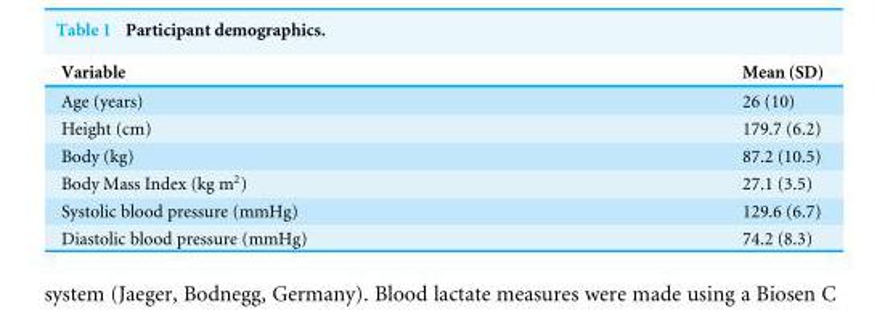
<table><thead><tr><td>Variable</td><td>Mean (SD)</td></tr></thead><tbody><tr><td>Age (years)</td><td>26 (10)</td></tr><tr><td>Height (cm)</td><td>179.7 (6.2)</td></tr><tr><td>Body (kg)</td><td>87.2 (10.5)</td></tr><tr><td>Body Mass Index (kg m<sup>2</sup>)</td><td>27.1 (3.5)</td></tr><tr><td>Systolic blood pressure (mmHg)</td><td>129.6 (6.7)</td></tr><tr><td>Diastolic blood pressure (mmHg)</td><td>74.2 (8.3)</td></tr></tbody></table>